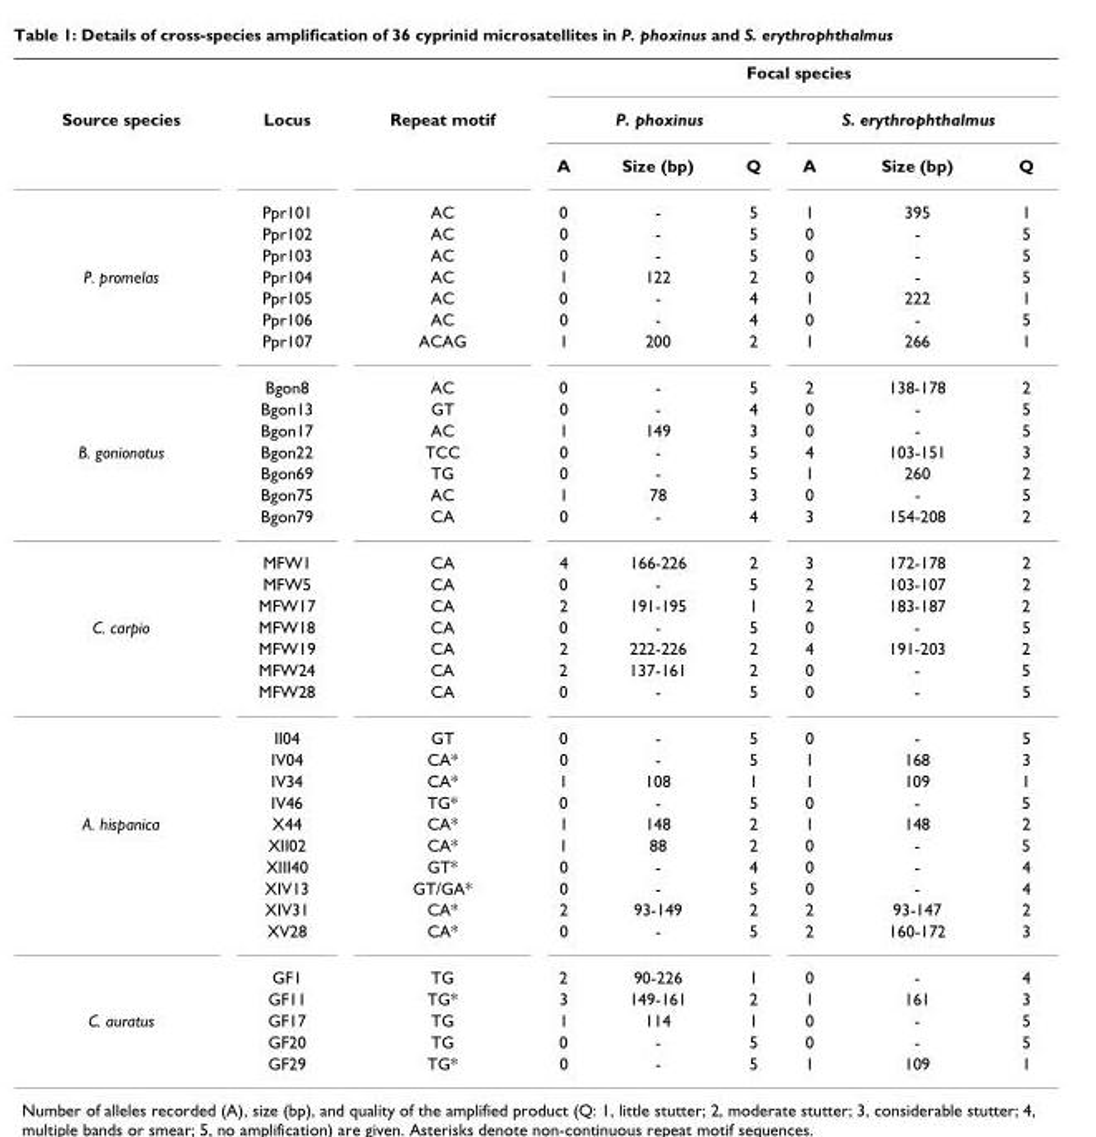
<table><thead><tr><td rowspan="3">Source species</td><td rowspan="3">Locus</td><td rowspan="3">Repeat motif</td><td colspan="6">Focal species</td></tr><tr><td colspan="3">P. phoxinus</td><td colspan="3">S. erythrophthalmus</td></tr><tr><td>A</td><td>Size (bp)</td><td>Q</td><td>A</td><td>Size (bp)</td><td>Q</td></tr></thead><tbody><tr><td></td><td>Ppr101</td><td>AC</td><td>0</td><td>-</td><td>5</td><td>1</td><td>395</td><td>1</td></tr><tr><td></td><td>Ppr102</td><td>AC</td><td>0</td><td>-</td><td>5</td><td>0</td><td>-</td><td>5</td></tr><tr><td></td><td>Ppr103</td><td>AC</td><td>0</td><td>-</td><td>5</td><td>0</td><td>-</td><td>5</td></tr><tr><td rowspan="7">P. promelas</td><td>Ppr104</td><td>AC</td><td>1</td><td>122</td><td>2</td><td>0</td><td>-</td><td>5</td></tr><tr><td>Ppr105</td><td>AC</td><td>0</td><td>-</td><td>4</td><td>1</td><td>222</td><td>1</td></tr><tr><td>Ppr106</td><td>AC</td><td>0</td><td>-</td><td>4</td><td>0</td><td>-</td><td>5</td></tr><tr><td>Ppr107</td><td>ACAG</td><td>1</td><td>200</td><td>2</td><td>1</td><td>266</td><td>1</td></tr><tr><td>Bgon8</td><td>AC</td><td>0</td><td>-</td><td>5</td><td>2</td><td>138-178</td><td>2</td></tr><tr><td>Bgon13</td><td>GT</td><td>0</td><td>-</td><td>4</td><td>0</td><td>-</td><td>5</td></tr><tr><td>Bgon17</td><td>AC</td><td>1</td><td>149</td><td>3</td><td>0</td><td>-</td><td>5</td></tr><tr><td rowspan="7">B. gonionotus</td><td>Bgon22</td><td>TCC</td><td>0</td><td>-</td><td>5</td><td>4</td><td>103-151</td><td>3</td></tr><tr><td>Bgon69</td><td>TG</td><td>0</td><td>-</td><td>5</td><td>1</td><td>260</td><td>2</td></tr><tr><td>Bgon75</td><td>AC</td><td>1</td><td>78</td><td>3</td><td>0</td><td>-</td><td>5</td></tr><tr><td>Bgon79</td><td>CA</td><td>0</td><td>-</td><td>4</td><td>3</td><td>154-208</td><td>2</td></tr><tr><td>MFW1</td><td>CA</td><td>4</td><td>166-226</td><td>2</td><td>3</td><td>172-178</td><td>2</td></tr><tr><td>MFW5</td><td>CA</td><td>0</td><td>-</td><td>5</td><td>2</td><td>103-107</td><td>2</td></tr><tr><td>MFW17</td><td>CA</td><td>2</td><td>191-195</td><td>1</td><td>2</td><td>183-187</td><td>2</td></tr><tr><td rowspan="8">C. carpio</td><td>MFW18</td><td>CA</td><td>0</td><td>-</td><td>5</td><td>0</td><td>-</td><td>5</td></tr><tr><td>MFW19</td><td>CA</td><td>2</td><td>222-226</td><td>2</td><td>4</td><td>191-203</td><td>2</td></tr><tr><td>MFW24</td><td>CA</td><td>2</td><td>137-161</td><td>2</td><td>0</td><td>-</td><td>5</td></tr><tr><td>MFW28</td><td>CA</td><td>0</td><td>-</td><td>5</td><td>0</td><td>-</td><td>5</td></tr><tr><td>II04</td><td>GT</td><td>0</td><td>-</td><td>5</td><td>0</td><td>-</td><td>5</td></tr><tr><td>IV04</td><td>CA*</td><td>0</td><td>-</td><td>5</td><td>1</td><td>168</td><td>3</td></tr><tr><td>IV34</td><td>CA*</td><td>1</td><td>108</td><td>1</td><td>1</td><td>109</td><td>1</td></tr><tr><td>IV46</td><td>TG*</td><td>0</td><td>-</td><td>5</td><td>0</td><td>-</td><td>5</td></tr><tr><td rowspan="8">A. hispanica</td><td>X44</td><td>CA*</td><td>1</td><td>148</td><td>2</td><td>1</td><td>148</td><td>2</td></tr><tr><td>XII02</td><td>CA*</td><td>1</td><td>88</td><td>2</td><td>0</td><td>-</td><td>5</td></tr><tr><td>XIII40</td><td>GT*</td><td>0</td><td>-</td><td>4</td><td>0</td><td>-</td><td>4</td></tr><tr><td>XIV13</td><td>GT/GA*</td><td>0</td><td>-</td><td>5</td><td>0</td><td>-</td><td>4</td></tr><tr><td>XIV31</td><td>CA*</td><td>2</td><td>93-149</td><td>2</td><td>2</td><td>93-147</td><td>2</td></tr><tr><td>XV28</td><td>CA*</td><td>0</td><td>-</td><td>5</td><td>2</td><td>160-172</td><td>3</td></tr><tr><td>GF1</td><td>TG</td><td>2</td><td>90-226</td><td>1</td><td>0</td><td>-</td><td>4</td></tr><tr><td>GF11</td><td>TG*</td><td>3</td><td>149-161</td><td>2</td><td>1</td><td>161</td><td>3</td></tr><tr><td rowspan="3">C. auratus</td><td>GF17</td><td>TG</td><td>1</td><td>114</td><td>1</td><td>0</td><td>-</td><td>5</td></tr><tr><td>GF20</td><td>TG</td><td>0</td><td>-</td><td>5</td><td>0</td><td>-</td><td>5</td></tr><tr><td>GF29</td><td>TG*</td><td>0</td><td>-</td><td>5</td><td>1</td><td>109</td><td>1</td></tr></tbody></table>